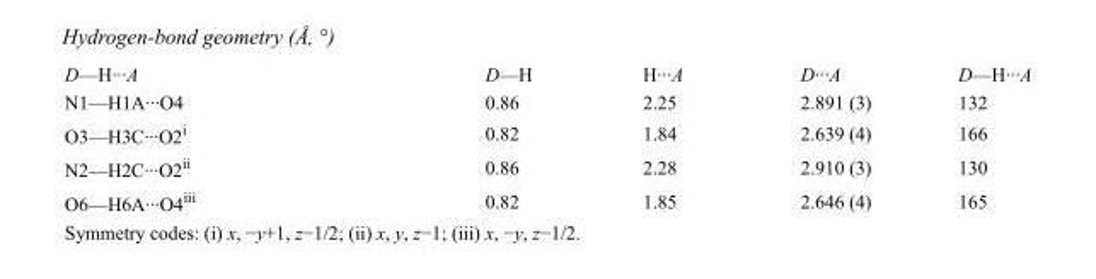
<table><tbody><tr><td>D—H···A</td><td>D—H</td><td>H···A</td><td>D···A</td><td>D—H···A</td></tr><tr><td>N1—H1A···O4</td><td>0.86</td><td>2.25</td><td>2.891 (3)</td><td>132</td></tr><tr><td>O3—H3C···O2<sup>i</sup></td><td>0.82</td><td>1.84</td><td>2.639 (4)</td><td>166</td></tr><tr><td>N2—H2C···O2<sup>ii</sup></td><td>0.86</td><td>2.28</td><td>2.910 (3)</td><td>130</td></tr><tr><td>O6—H6A···O4<sup>iii</sup></td><td>0.82</td><td>1.85</td><td>2.646 (4)</td><td>165</td></tr></tbody></table>